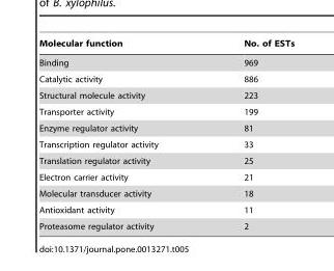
<table><thead><tr><td>Molecular function</td><td>No. of ESTs</td></tr></thead><tbody><tr><td>Binding</td><td>969</td></tr><tr><td>Catalytic activity</td><td>886</td></tr><tr><td>Structural molecule activity</td><td>223</td></tr><tr><td>Transporter activity</td><td>199</td></tr><tr><td>Enzyme regulator activity</td><td>81</td></tr><tr><td>Transcription regulator activity</td><td>33</td></tr><tr><td>Translation regulator activity</td><td>25</td></tr><tr><td>Electron carrier activity</td><td>21</td></tr><tr><td>Molecular transducer activity</td><td>18</td></tr><tr><td>Antioxidant activity</td><td>11</td></tr><tr><td>Proteasome regulator activity</td><td>2</td></tr></tbody></table>